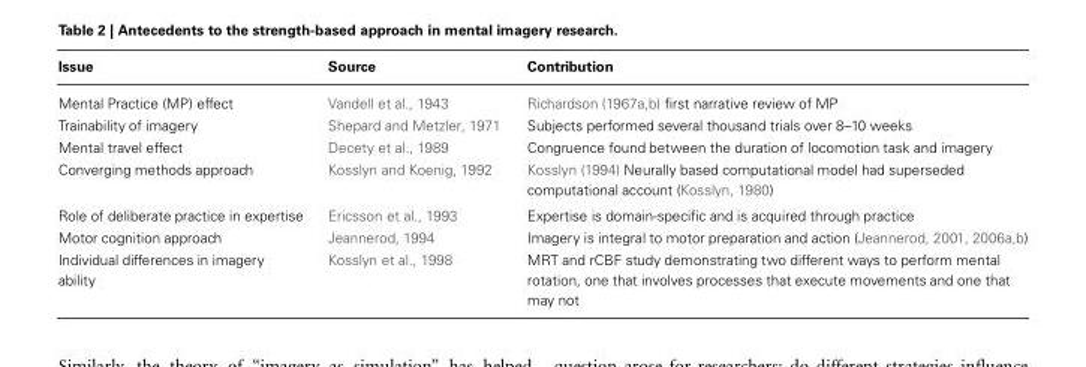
<table><thead><tr><td>Issue</td><td>Source</td><td>Contribution</td></tr></thead><tbody><tr><td>Mental Practice (MP) effect</td><td>Vandell et al., 1943</td><td>Richardson (1967a,b) first narrative review of MP</td></tr><tr><td>Trainability of imagery</td><td>Shepard and Metzler, 1971</td><td>Subjects performed several thousand trials over 8–10 weeks</td></tr><tr><td>Mental travel effect</td><td>Decety et al., 1989</td><td>Congruence found between the duration of locomotion task and imagery</td></tr><tr><td>Converging methods approach</td><td>Kosslyn and Koenig, 1992</td><td>Kosslyn (1994) Neurally based computational model had superseded computational account (Kosslyn, 1980)</td></tr><tr><td>Role of deliberate practice in expertise</td><td>Ericsson et al., 1993</td><td>Expertise is domain-specific and is acquired through practice</td></tr><tr><td>Motor cognition approach</td><td>Jeannerod, 1994</td><td>Imagery is integral to motor preparation and action (Jeannerod, 2001, 2006a,b)</td></tr><tr><td>Individual differences in imagery ability</td><td>Kosslyn et al., 1998</td><td>MRT and rCBF study demonstrating two different ways to perform mental rotation, one that involves processes that execute movements and one that may not</td></tr></tbody></table>